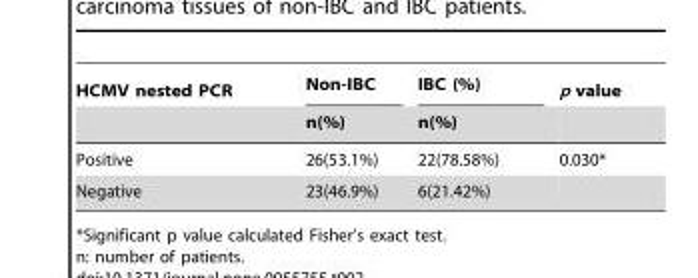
<table><thead><tr><td rowspan="2">HCMV nested PCR</td><td rowspan="2">Non-IBC n(%)</td><td rowspan="2">IBC (%) n(%)</td><td rowspan="2">p value</td></tr><tr></tr></thead><tbody><tr><td>Positive</td><td>26(53.1%)</td><td>22(78.58%)</td><td>0.030*</td></tr><tr><td>Negative</td><td>23(46.9%)</td><td>6(21.42%)</td><td></td></tr></tbody></table>